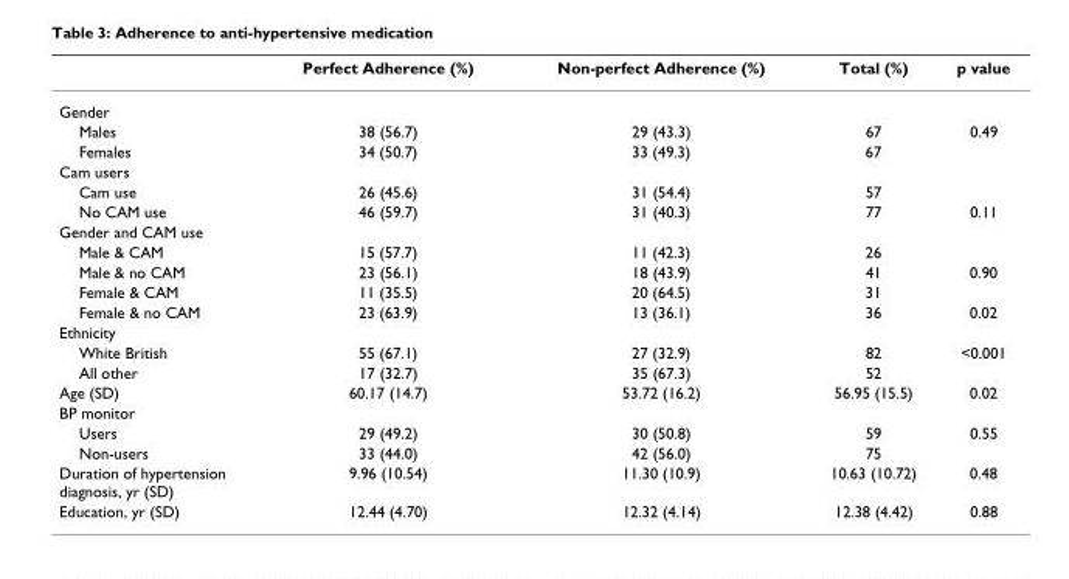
<table><thead><tr><td></td><td>Perfect Adherence (%)</td><td>Non-perfect Adherence (%)</td><td>Total (%)</td><td>p value</td></tr></thead><tbody><tr><td colspan="5">Gender</td></tr><tr><td>Males</td><td>38 (56.7)</td><td>29 (43.3)</td><td>67</td><td>0.49</td></tr><tr><td>Females</td><td>34 (50.7)</td><td>33 (49.3)</td><td>67</td><td></td></tr><tr><td colspan="5">Cam users</td></tr><tr><td>Cam use</td><td>26 (45.6)</td><td>31 (54.4)</td><td>57</td><td></td></tr><tr><td>No CAM use</td><td>46 (59.7)</td><td>31 (40.3)</td><td>77</td><td>0.11</td></tr><tr><td colspan="5">Gender and CAM use</td></tr><tr><td>Male &amp; CAM</td><td>15 (57.7)</td><td>11 (42.3)</td><td>26</td><td></td></tr><tr><td>Male &amp; no CAM</td><td>23 (56.1)</td><td>18 (43.9)</td><td>41</td><td>0.90</td></tr><tr><td>Female &amp; CAM</td><td>11 (35.5)</td><td>20 (64.5)</td><td>31</td><td></td></tr><tr><td>Female &amp; no CAM</td><td>23 (63.9)</td><td>13 (36.1)</td><td>36</td><td>0.02</td></tr><tr><td colspan="5">Ethnicity</td></tr><tr><td>White British</td><td>55 (67.1)</td><td>27 (32.9)</td><td>82</td><td>&lt;0.001</td></tr><tr><td>All other</td><td>17 (32.7)</td><td>35 (67.3)</td><td>52</td><td></td></tr><tr><td>Age (SD)</td><td>60.17 (14.7)</td><td>53.72 (16.2)</td><td>56.95 (15.5)</td><td>0.02</td></tr><tr><td colspan="5">BP monitor</td></tr><tr><td>Users</td><td>29 (49.2)</td><td>30 (50.8)</td><td>59</td><td>0.55</td></tr><tr><td>Non-users</td><td>33 (44.0)</td><td>42 (56.0)</td><td>75</td><td></td></tr><tr><td>Duration of hypertension diagnosis, yr (SD)</td><td>9.96 (10.54)</td><td>11.30 (10.9)</td><td>10.63 (10.72)</td><td>0.48</td></tr><tr><td>Education, yr (SD)</td><td>12.44 (4.70)</td><td>12.32 (4.14)</td><td>12.38 (4.42)</td><td>0.88</td></tr></tbody></table>